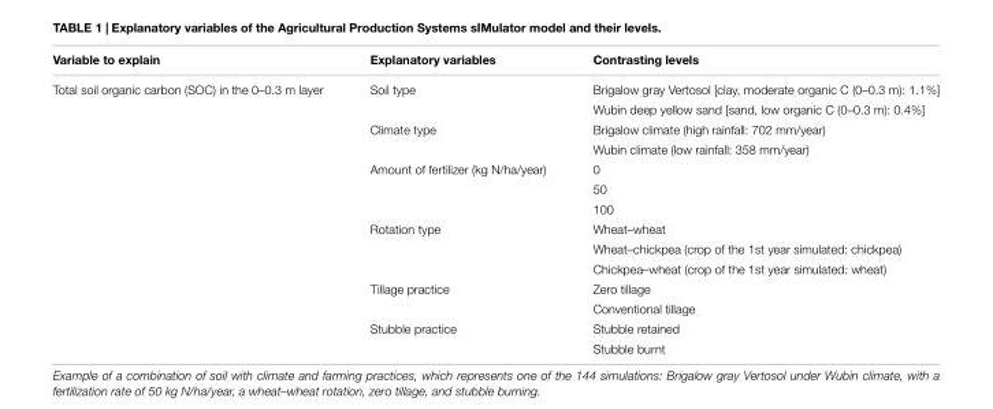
<table><thead><tr><td>Variable to explain</td><td>Explanatory variables</td><td>Contrasting levels</td></tr></thead><tbody><tr><td rowspan="14">Total soil organic carbon (SOC) in the 0–0.3 m layer</td><td>Soil type</td><td>Brigalow gray Vertosol [clay, moderate organic C (0–0.3 m): 1.1%]</td></tr><tr><td></td><td>Wubin deep yellow sand [sand, low organic C (0–0.3 m): 0.4%]</td></tr><tr><td>Climate type</td><td>Brigalow climate (high rainfall: 702 mm/year)</td></tr><tr><td></td><td>Wubin climate (low rainfall: 358 mm/year)</td></tr><tr><td>Amount of fertilizer (kg N/ha/year)</td><td>0</td></tr><tr><td></td><td>50</td></tr><tr><td></td><td>100</td></tr><tr><td>Rotation type</td><td>Wheat–wheat</td></tr><tr><td></td><td>Wheat–chickpea (crop of the 1st year simulated: chickpea)</td></tr><tr><td></td><td>Chickpea–wheat (crop of the 1st year simulated: wheat)</td></tr><tr><td>Tillage practice</td><td>Zero tillage</td></tr><tr><td></td><td>Conventional tillage</td></tr><tr><td>Stubble practice</td><td>Stubble retained</td></tr><tr><td></td><td>Stubble burnt</td></tr></tbody></table>